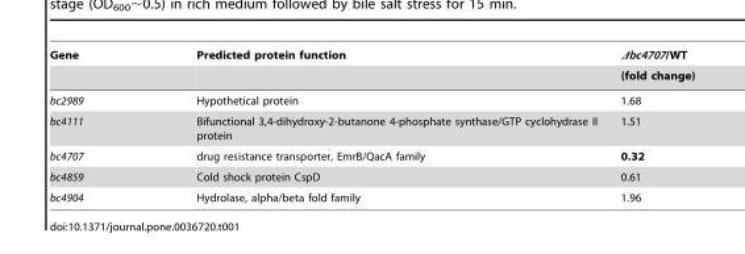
<table><thead><tr><td rowspan="2">Gene</td><td rowspan="2">Predicted protein function</td><td rowspan="2">Δbc4707/WT (fold change)</td></tr><tr></tr></thead><tbody><tr><td>bc2989</td><td>Hypothetical protein</td><td>1.68</td></tr><tr><td>bc4111</td><td>Bifunctional 3,4-dihydroxy-2-butanone 4-phosphate synthase/GTP cyclohydrase II protein</td><td>1.51</td></tr><tr><td>bc4707</td><td>drug resistance transporter, EmrB/QacA family</td><td>0.32</td></tr><tr><td>bc4859</td><td>Cold shock protein CspD</td><td>0.61</td></tr><tr><td>bc4904</td><td>Hydrolase, alpha/beta fold family</td><td>1.96</td></tr></tbody></table>